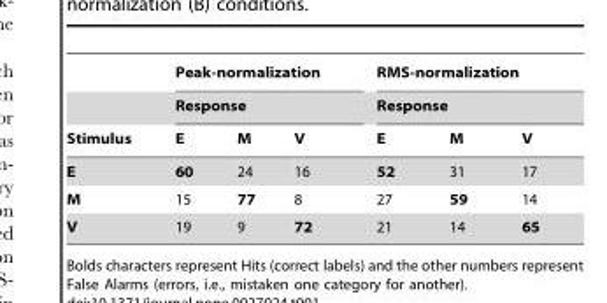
<table><thead><tr><td rowspan="3">Stimulus</td><td rowspan="2" colspan="3">Peak-normalization Response</td><td rowspan="2" colspan="3">RMS-normalization Response</td></tr><tr></tr><tr><td>E</td><td>M</td><td>V</td><td>E</td><td>M</td><td>V</td></tr></thead><tbody><tr><td>E</td><td>60</td><td>24</td><td>16</td><td>52</td><td>31</td><td>17</td></tr><tr><td>M</td><td>15</td><td>77</td><td>8</td><td>27</td><td>59</td><td>14</td></tr><tr><td>V</td><td>19</td><td>9</td><td>72</td><td>21</td><td>14</td><td>65</td></tr></tbody></table>